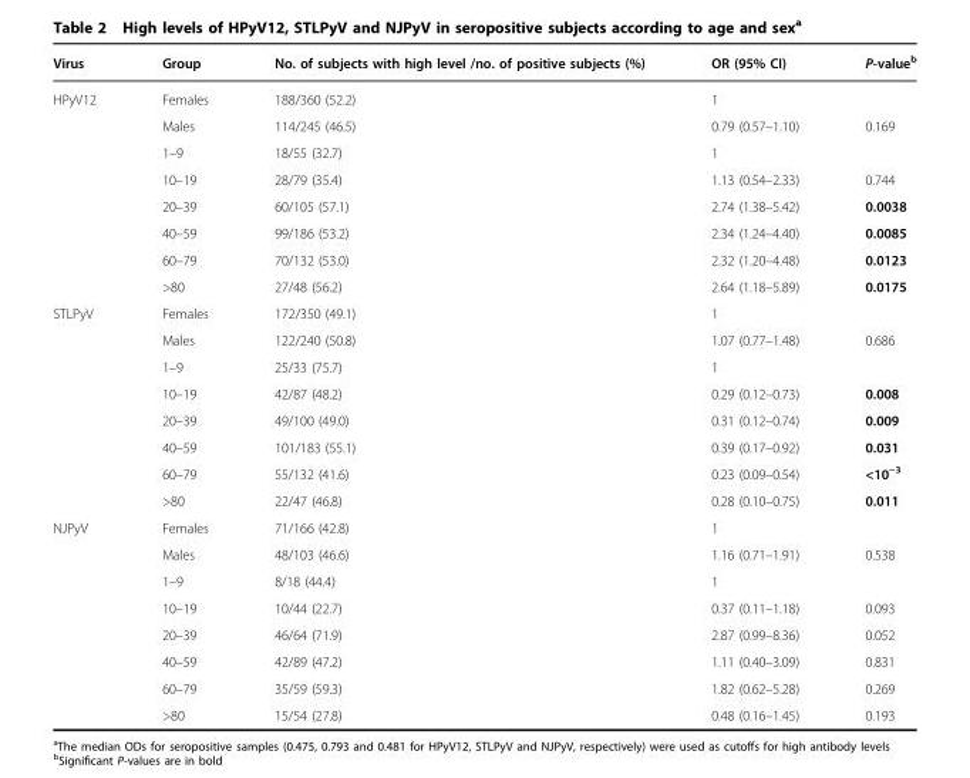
<table><thead><tr><td>Virus</td><td>Group</td><td>No. of subjects with high level /no. of positive subjects (%)</td><td>OR (95% CI)</td><td>P-value<sup>b</sup></td></tr></thead><tbody><tr><td rowspan="8">HPyV12</td><td>Females</td><td>188/360 (52.2)</td><td>1</td><td></td></tr><tr><td>Males</td><td>114/245 (46.5)</td><td>0.79 (0.57–1.10)</td><td>0.169</td></tr><tr><td>1–9</td><td>18/55 (32.7)</td><td>1</td><td></td></tr><tr><td>10–19</td><td>28/79 (35.4)</td><td>1.13 (0.54–2.33)</td><td>0.744</td></tr><tr><td>20–39</td><td>60/105 (57.1)</td><td>2.74 (1.38–5.42)</td><td>0.0038</td></tr><tr><td>40–59</td><td>99/186 (53.2)</td><td>2.34 (1.24–4.40)</td><td>0.0085</td></tr><tr><td>60–79</td><td>70/132 (53.0)</td><td>2.32 (1.20–4.48)</td><td>0.0123</td></tr><tr><td>&gt;80</td><td>27/48 (56.2)</td><td>2.64 (1.18–5.89)</td><td>0.0175</td></tr><tr><td rowspan="8">STLPyV</td><td>Females</td><td>172/350 (49.1)</td><td>1</td><td></td></tr><tr><td>Males</td><td>122/240 (50.8)</td><td>1.07 (0.77–1.48)</td><td>0.686</td></tr><tr><td>1–9</td><td>25/33 (75.7)</td><td>1</td><td></td></tr><tr><td>10–19</td><td>42/87 (48.2)</td><td>0.29 (0.12–0.73)</td><td>0.008</td></tr><tr><td>20–39</td><td>49/100 (49.0)</td><td>0.31 (0.12–0.74)</td><td>0.009</td></tr><tr><td>40–59</td><td>101/183 (55.1)</td><td>0.39 (0.17–0.92)</td><td>0.031</td></tr><tr><td>60–79</td><td>55/132 (41.6)</td><td>0.23 (0.09–0.54)</td><td>&lt;10<sup>−3</sup></td></tr><tr><td>&gt;80</td><td>22/47 (46.8)</td><td>0.28 (0.10–0.75)</td><td>0.011</td></tr><tr><td rowspan="8">NJPyV</td><td>Females</td><td>71/166 (42.8)</td><td>1</td><td></td></tr><tr><td>Males</td><td>48/103 (46.6)</td><td>1.16 (0.71–1.91)</td><td>0.538</td></tr><tr><td>1–9</td><td>8/18 (44.4)</td><td>1</td><td></td></tr><tr><td>10–19</td><td>10/44 (22.7)</td><td>0.37 (0.11–1.18)</td><td>0.093</td></tr><tr><td>20–39</td><td>46/64 (71.9)</td><td>2.87 (0.99–8.36)</td><td>0.052</td></tr><tr><td>40–59</td><td>42/89 (47.2)</td><td>1.11 (0.40–3.09)</td><td>0.831</td></tr><tr><td>60–79</td><td>35/59 (59.3)</td><td>1.82 (0.62–5.28)</td><td>0.269</td></tr><tr><td>&gt;80</td><td>15/54 (27.8)</td><td>0.48 (0.16–1.45)</td><td>0.193</td></tr></tbody></table>